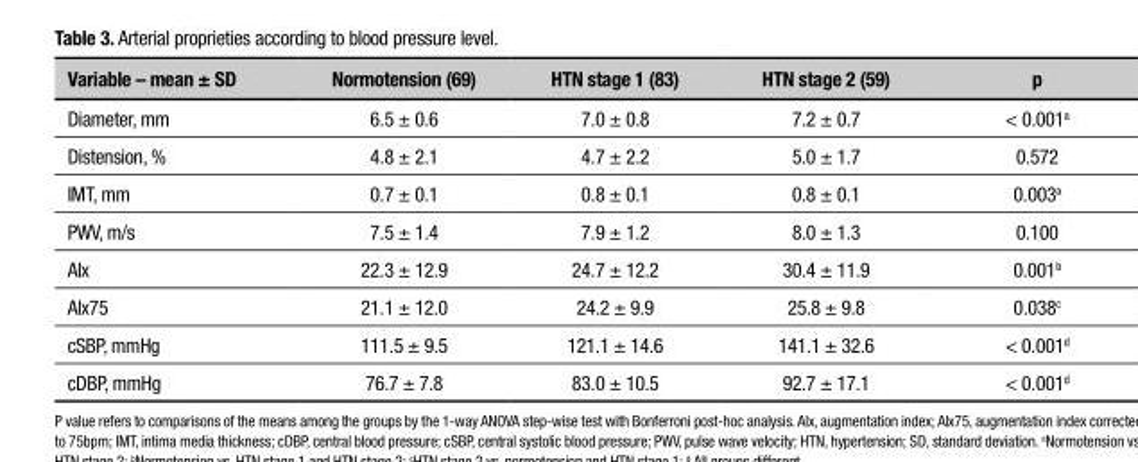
<table><thead><tr><td>Variable – mean ± SD</td><td>Normotension (69)</td><td>HTN stage 1 (83)</td><td>HTN stage 2 (59)</td><td>p</td></tr></thead><tbody><tr><td>Diameter, mm</td><td>6.5 ± 0.6</td><td>7.0 ± 0.8</td><td>7.2 ± 0.7</td><td>&lt; 0.001<sup>a</sup></td></tr><tr><td>Distension, %</td><td>4.8 ± 2.1</td><td>4.7 ± 2.2</td><td>5.0 ± 1.7</td><td>0.572</td></tr><tr><td>IMT, mm</td><td>0.7 ± 0.1</td><td>0.8 ± 0.1</td><td>0.8 ± 0.1</td><td>0.003<sup>a</sup></td></tr><tr><td>PWV, m/s</td><td>7.5 ± 1.4</td><td>7.9 ± 1.2</td><td>8.0 ± 1.3</td><td>0.100</td></tr><tr><td>AIx</td><td>22.3 ± 12.9</td><td>24.7 ± 12.2</td><td>30.4 ± 11.9</td><td>0.001<sup>b</sup></td></tr><tr><td>Alx75</td><td>21.1 ± 12.0</td><td>24.2 ± 9.9</td><td>25.8 ± 9.8</td><td>0.038<sup>c</sup></td></tr><tr><td>cSBP, mmHg</td><td>111.5 ± 9.5</td><td>121.1 ± 14.6</td><td>141.1 ± 32.6</td><td>&lt; 0.001<sup>d</sup></td></tr><tr><td>cDBP, mmHg</td><td>76.7 ± 7.8</td><td>83.0 ± 10.5</td><td>92.7 ± 17.1</td><td>&lt; 0.001<sup>d</sup></td></tr></tbody></table>